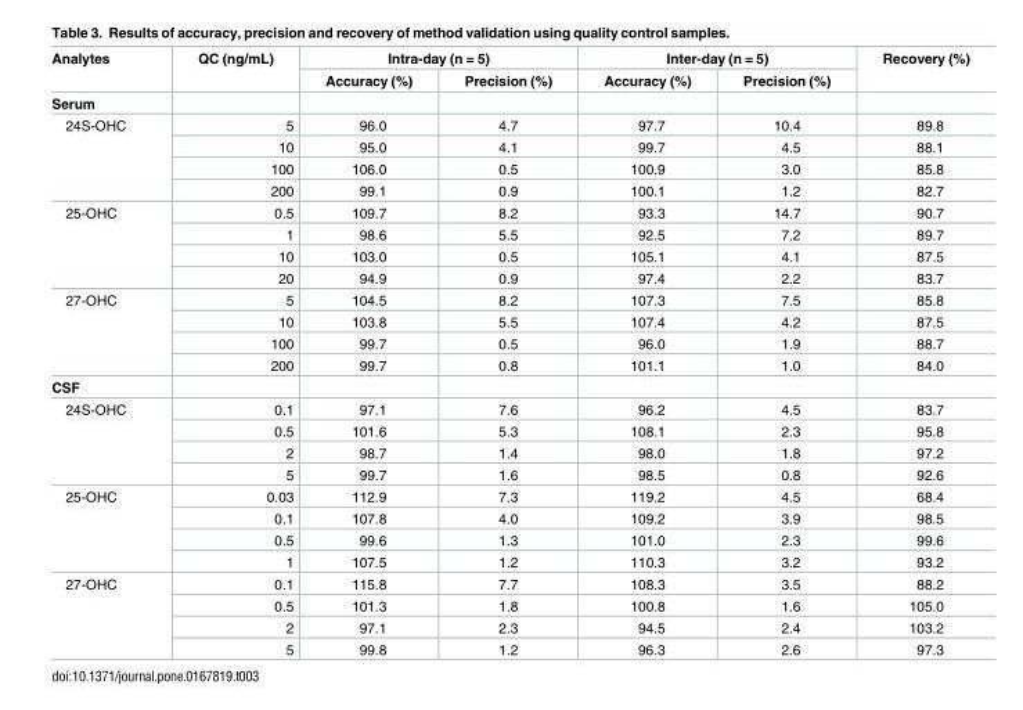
<table><thead><tr><td rowspan="2">Analytes</td><td rowspan="2">QC (ng/mL)</td><td colspan="2">Intra-day (n = 5)</td><td colspan="2">Inter-day (n = 5)</td><td rowspan="2">Recovery (%)</td></tr><tr><td>Accuracy (%)</td><td>Precision (%)</td><td>Accuracy (%)</td><td>Precision (%)</td></tr></thead><tbody><tr><td colspan="7">Serum</td></tr><tr><td rowspan="4">24S-OHC</td><td>5</td><td>96.0</td><td>4.7</td><td>97.7</td><td>10.4</td><td>89.8</td></tr><tr><td>10</td><td>95.0</td><td>4.1</td><td>99.7</td><td>4.5</td><td>88.1</td></tr><tr><td>100</td><td>106.0</td><td>0.5</td><td>100.9</td><td>3.0</td><td>85.8</td></tr><tr><td>200</td><td>99.1</td><td>0.9</td><td>100.1</td><td>1.2</td><td>82.7</td></tr><tr><td rowspan="4">25-OHC</td><td>0.5</td><td>109.7</td><td>8.2</td><td>93.3</td><td>14.7</td><td>90.7</td></tr><tr><td>1</td><td>98.6</td><td>5.5</td><td>92.5</td><td>7.2</td><td>89.7</td></tr><tr><td>10</td><td>103.0</td><td>0.5</td><td>105.1</td><td>4.1</td><td>87.5</td></tr><tr><td>20</td><td>94.9</td><td>0.9</td><td>97.4</td><td>2.2</td><td>83.7</td></tr><tr><td rowspan="4">27-OHC</td><td>5</td><td>104.5</td><td>8.2</td><td>107.3</td><td>7.5</td><td>85.8</td></tr><tr><td>10</td><td>103.8</td><td>5.5</td><td>107.4</td><td>4.2</td><td>87.5</td></tr><tr><td>100</td><td>99.7</td><td>0.5</td><td>96.0</td><td>1.9</td><td>88.7</td></tr><tr><td>200</td><td>99.7</td><td>0.8</td><td>101.1</td><td>1.0</td><td>84.0</td></tr><tr><td colspan="7">CSF</td></tr><tr><td rowspan="4">24S-OHC</td><td>0.1</td><td>97.1</td><td>7.6</td><td>96.2</td><td>4.5</td><td>83.7</td></tr><tr><td>0.5</td><td>101.6</td><td>5.3</td><td>108.1</td><td>2.3</td><td>95.8</td></tr><tr><td>2</td><td>98.7</td><td>1.4</td><td>98.0</td><td>1.8</td><td>97.2</td></tr><tr><td>5</td><td>99.7</td><td>1.6</td><td>98.5</td><td>0.8</td><td>92.6</td></tr><tr><td rowspan="4">25-OHC</td><td>0.03</td><td>112.9</td><td>7.3</td><td>119.2</td><td>4.5</td><td>68.4</td></tr><tr><td>0.1</td><td>107.8</td><td>4.0</td><td>109.2</td><td>3.9</td><td>98.5</td></tr><tr><td>0.5</td><td>99.6</td><td>1.3</td><td>101.0</td><td>2.3</td><td>99.6</td></tr><tr><td>1</td><td>107.5</td><td>1.2</td><td>110.3</td><td>3.2</td><td>93.2</td></tr><tr><td rowspan="4">27-OHC</td><td>0.1</td><td>115.8</td><td>7.7</td><td>108.3</td><td>3.5</td><td>88.2</td></tr><tr><td>0.5</td><td>101.3</td><td>1.8</td><td>100.8</td><td>1.6</td><td>105.0</td></tr><tr><td>2</td><td>97.1</td><td>2.3</td><td>94.5</td><td>2.4</td><td>103.2</td></tr><tr><td>5</td><td>99.8</td><td>1.2</td><td>96.3</td><td>2.6</td><td>97.3</td></tr></tbody></table>